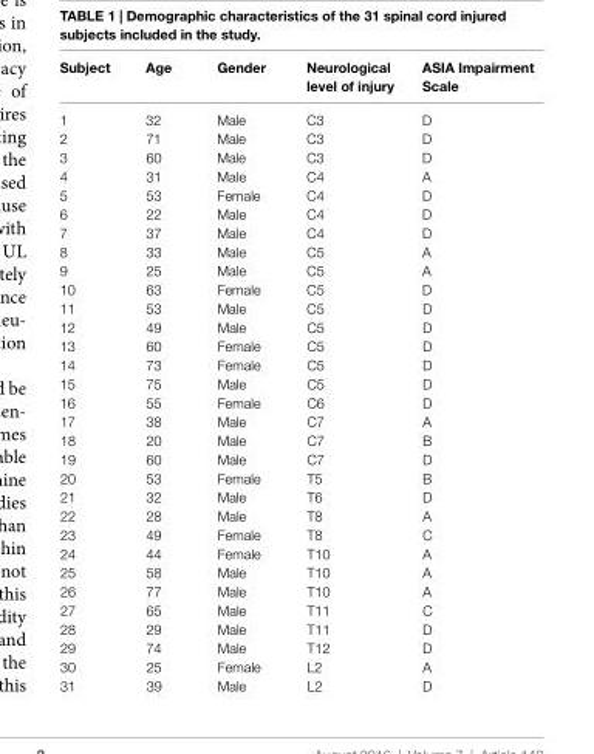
<table><thead><tr><td>subject</td><td>age</td><td>gender</td><td>neurological level of injury</td><td>asia impairment scale</td></tr></thead><tbody><tr><td>1</td><td>32</td><td>Male</td><td>C3</td><td>D</td></tr><tr><td>2</td><td>71</td><td>Male</td><td>C3</td><td>D</td></tr><tr><td>3</td><td>60</td><td>Male</td><td>C3</td><td>D</td></tr><tr><td>4</td><td>31</td><td>Male</td><td>C4</td><td>A</td></tr><tr><td>5</td><td>53</td><td>Female</td><td>C4</td><td>D</td></tr><tr><td>6</td><td>22</td><td>Male</td><td>C4</td><td>D</td></tr><tr><td>7</td><td>37</td><td>Male</td><td>C4</td><td>D</td></tr><tr><td>8</td><td>33</td><td>Male</td><td>C5</td><td>A</td></tr><tr><td>9</td><td>25</td><td>Male</td><td>C5</td><td>A</td></tr><tr><td>10</td><td>63</td><td>Female</td><td>C5</td><td>D</td></tr><tr><td>11</td><td>53</td><td>Male</td><td>C5</td><td>D</td></tr><tr><td>12</td><td>49</td><td>Male</td><td>C5</td><td>D</td></tr><tr><td>13</td><td>60</td><td>Female</td><td>C5</td><td>D</td></tr><tr><td>14</td><td>73</td><td>Female</td><td>C5</td><td>D</td></tr><tr><td>15</td><td>75</td><td>Male</td><td>C5</td><td>D</td></tr><tr><td>16</td><td>55</td><td>Female</td><td>C6</td><td>D</td></tr><tr><td>17</td><td>38</td><td>Male</td><td>C7</td><td>A</td></tr><tr><td>18</td><td>20</td><td>Male</td><td>C7</td><td>B</td></tr><tr><td>19</td><td>60</td><td>Male</td><td>C7</td><td>D</td></tr><tr><td>20</td><td>53</td><td>Female</td><td>T5</td><td>B</td></tr><tr><td>21</td><td>32</td><td>Male</td><td>T6</td><td>D</td></tr><tr><td>22</td><td>28</td><td>Male</td><td>T8</td><td>A</td></tr><tr><td>23</td><td>49</td><td>Female</td><td>T8</td><td>C</td></tr><tr><td>24</td><td>44</td><td>Female</td><td>T10</td><td>A</td></tr><tr><td>25</td><td>58</td><td>Male</td><td>T10</td><td>A</td></tr><tr><td>26</td><td>77</td><td>Male</td><td>T10</td><td>A</td></tr><tr><td>27</td><td>65</td><td>Male</td><td>T11</td><td>C</td></tr><tr><td>28</td><td>29</td><td>Male</td><td>T11</td><td>D</td></tr><tr><td>29</td><td>74</td><td>Male</td><td>T12</td><td>D</td></tr><tr><td>30</td><td>25</td><td>Female</td><td>L2</td><td>A</td></tr><tr><td>31</td><td>39</td><td>Male</td><td>L2</td><td>D</td></tr></tbody></table>